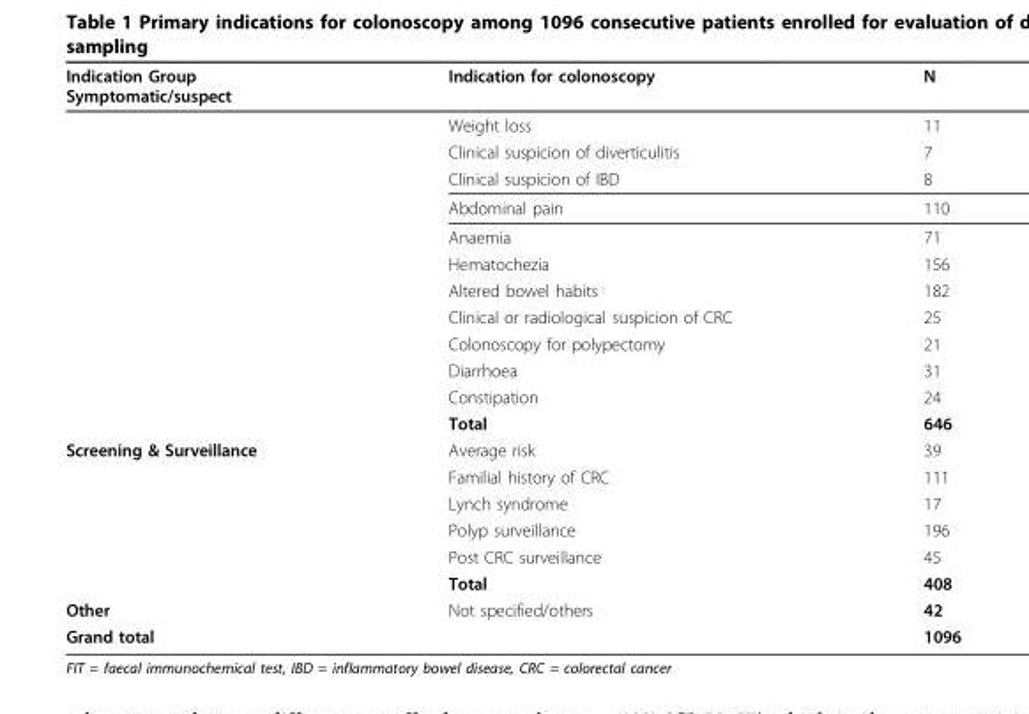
<table><thead><tr><td>Indication Group Symptomatic/suspect</td><td>Indication for colonoscopy</td><td>N</td></tr></thead><tbody><tr><td></td><td>Weight loss</td><td>11</td></tr><tr><td></td><td>Clinical suspicion of diverticulitis</td><td>7</td></tr><tr><td></td><td>Clinical suspicion of IBD</td><td>8</td></tr><tr><td></td><td>Abdominal pain</td><td>110</td></tr><tr><td></td><td>Anaemia</td><td>71</td></tr><tr><td></td><td>Hematochezia</td><td>156</td></tr><tr><td></td><td>Altered bowel habits</td><td>182</td></tr><tr><td></td><td>Clinical or radiological suspicion of CRC</td><td>25</td></tr><tr><td></td><td>Colonoscopy for polypectomy</td><td>21</td></tr><tr><td></td><td>Diarrhoea</td><td>31</td></tr><tr><td></td><td>Constipation</td><td>24</td></tr><tr><td></td><td>Total</td><td>646</td></tr><tr><td rowspan="6">Screening &amp; Surveillance</td><td>Average risk</td><td>39</td></tr><tr><td>Familial history of CRC</td><td>111</td></tr><tr><td>Lynch syndrome</td><td>17</td></tr><tr><td>Polyp surveillance</td><td>196</td></tr><tr><td>Post CRC surveillance</td><td>45</td></tr><tr><td>Total</td><td>408</td></tr><tr><td>Other</td><td>Not specified/others</td><td>42</td></tr><tr><td colspan="2">Grand total</td><td>1096</td></tr></tbody></table>